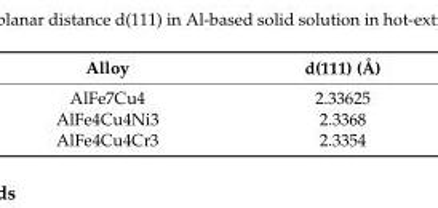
<table><thead><tr><td>Alloy</td><td>d(111) (Å)</td></tr></thead><tbody><tr><td>AlFe7Cu4</td><td>2.33625</td></tr><tr><td>AlFe4Cu4Ni3</td><td>2.3368</td></tr><tr><td>AlFe4Cu4Cr3</td><td>2.3354</td></tr></tbody></table>